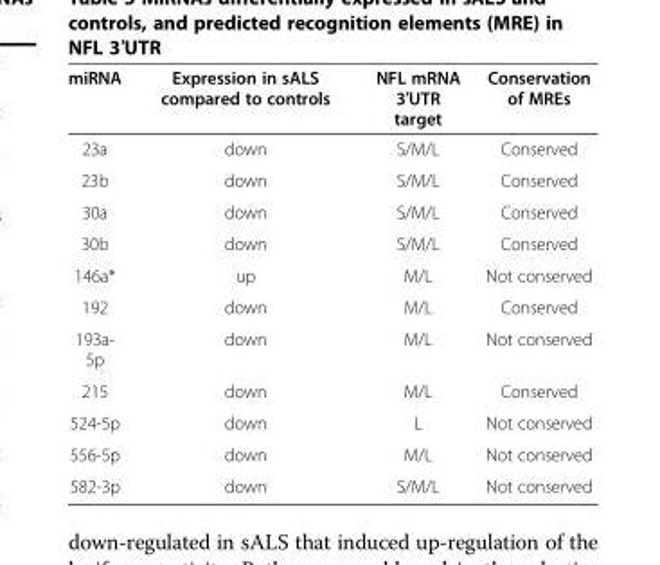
<table><thead><tr><td>miRNA</td><td>Expression in sALS compared to controls</td><td>NFL mRNA 3′UTR target</td><td>Conservation of MREs</td></tr></thead><tbody><tr><td>23a</td><td>down</td><td>S/M/L</td><td>Conserved</td></tr><tr><td>23b</td><td>down</td><td>S/M/L</td><td>Conserved</td></tr><tr><td>30a</td><td>down</td><td>S/M/L</td><td>Conserved</td></tr><tr><td>30b</td><td>down</td><td>S/M/L</td><td>Conserved</td></tr><tr><td>146a*</td><td>up</td><td>M/L</td><td>Not conserved</td></tr><tr><td>192</td><td>down</td><td>M/L</td><td>Conserved</td></tr><tr><td>193a- 5p</td><td>down</td><td>M/L</td><td>Not conserved</td></tr><tr><td>215</td><td>down</td><td>M/L</td><td>Conserved</td></tr><tr><td>524-5p</td><td>down</td><td>L</td><td>Not conserved</td></tr><tr><td>556-5p</td><td>down</td><td>M/L</td><td>Not conserved</td></tr><tr><td>582-3p</td><td>down</td><td>S/M/L</td><td>Not conserved</td></tr></tbody></table>